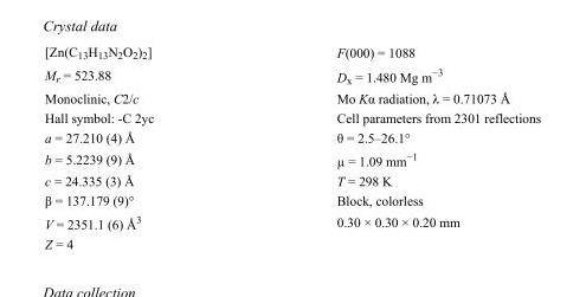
<table><tbody><tr><td>[Zn(C<sub>13</sub>H<sub>13</sub>N<sub>2</sub>O<sub>2</sub>)<sub>2</sub>]</td><td>F(000) = 1088</td></tr><tr><td>M<sub>r</sub> = 523.88</td><td>D<sub>x</sub> = 1.480 Mg m<sup>−3</sup></td></tr><tr><td>Monoclinic, C2/c</td><td>Mo Kα radiation, λ = 0.71073 Å</td></tr><tr><td>Hall symbol: -C 2yc</td><td>Cell parameters from 2301 reflections</td></tr><tr><td>a = 27.210 (4) Å</td><td>θ = 2.5–26.1°</td></tr><tr><td>b = 5.2239 (9) Å</td><td>µ = 1.09 mm<sup>−1</sup></td></tr><tr><td>c = 24.335 (3) Å</td><td>T = 298 K</td></tr><tr><td>β = 137.179 (9)°</td><td>Block, colorless</td></tr><tr><td>V = 2351.1 (6) Å<sup>3</sup></td><td>0.30 × 0.30 × 0.20 mm</td></tr><tr><td>Z = 4</td><td></td></tr></tbody></table>